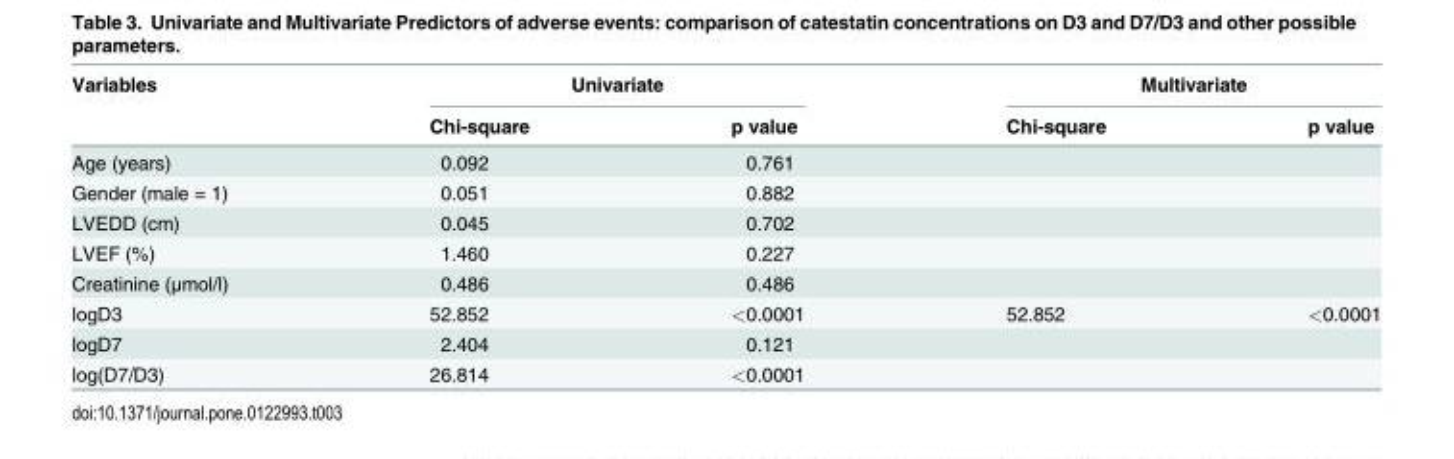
<table><thead><tr><td rowspan="2">Variables</td><td colspan="2">Univariate</td><td colspan="2">Multivariate</td></tr><tr><td>Chi-square</td><td>p value</td><td>Chi-square</td><td>p value</td></tr></thead><tbody><tr><td>Age (years)</td><td>0.092</td><td>0.761</td><td></td><td></td></tr><tr><td>Gender (male = 1)</td><td>0.051</td><td>0.882</td><td></td><td></td></tr><tr><td>LVEDD (cm)</td><td>0.045</td><td>0.702</td><td></td><td></td></tr><tr><td>LVEF (%)</td><td>1.460</td><td>0.227</td><td></td><td></td></tr><tr><td>Creatinine (μmol/l)</td><td>0.486</td><td>0.486</td><td></td><td></td></tr><tr><td>logD3</td><td>52.852</td><td>&lt;0.0001</td><td>52.852</td><td>&lt;0.0001</td></tr><tr><td>logD7</td><td>2.404</td><td>0.121</td><td></td><td></td></tr><tr><td>log(D7/D3)</td><td>26.814</td><td>&lt;0.0001</td><td></td><td></td></tr></tbody></table>